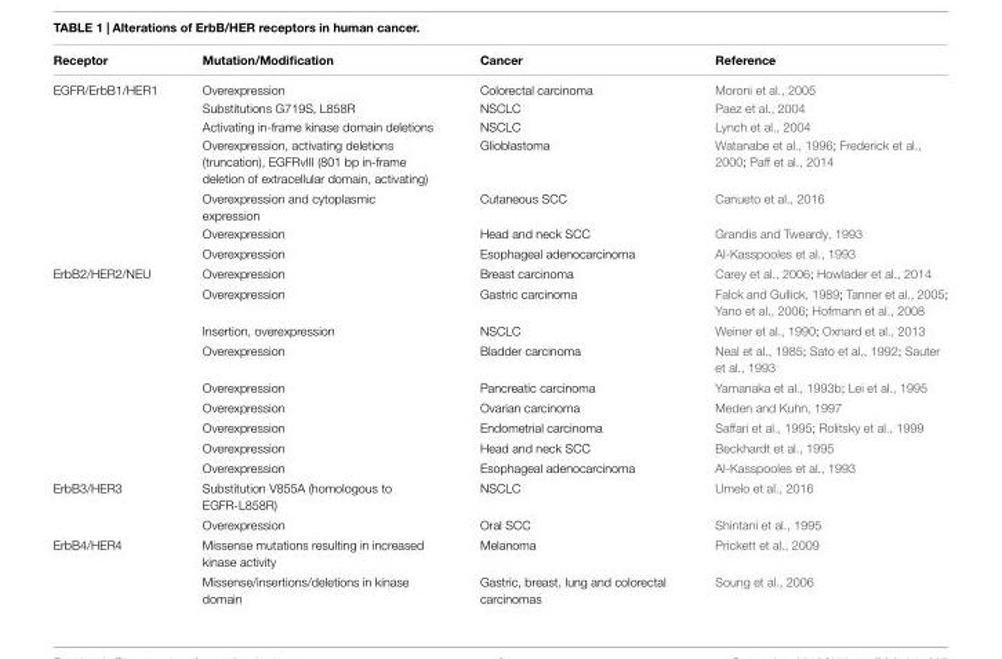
<table><thead><tr><td>Receptor</td><td>Mutation/Modification</td><td>Cancer</td><td>Reference</td></tr></thead><tbody><tr><td rowspan="7">EGFR/ErbB1/HER1</td><td>Overexpression</td><td>Colorectal carcinoma</td><td>Moroni et al., 2005</td></tr><tr><td>Substitutions G719S, L858R</td><td>NSCLC</td><td>Paez et al., 2004</td></tr><tr><td>Activating in-frame kinase domain deletions</td><td>NSCLC</td><td>Lynch et al., 2004</td></tr><tr><td>Overexpression, activating deletions (truncation), EGFRvIII (801 bp in-frame deletion of extracellular domain, activating)</td><td>Glioblastoma</td><td>Watanabe et al., 1996; Frederick et al., 2000; Paff et al., 2014</td></tr><tr><td>Overexpression and cytoplasmic expression</td><td>Cutaneous SCC</td><td>Canueto et al., 2016</td></tr><tr><td>Overexpression</td><td>Head and neck SCC</td><td>Grandis and Tweardy, 1993</td></tr><tr><td>Overexpression</td><td>Esophageal adenocarcinoma</td><td>Al-Kasspooles et al., 1993</td></tr><tr><td rowspan="9">ErbB2/HER2/NEU</td><td>Overexpression</td><td>Breast carcinoma</td><td>Carey et al., 2006; Howlader et al., 2014</td></tr><tr><td>Overexpression</td><td>Gastric carcinoma</td><td>Falck and Gullick, 1989; Tanner et al., 2005; Yano et al., 2006; Hofmann et al., 2008</td></tr><tr><td>Insertion, overexpression</td><td>NSCLC</td><td>Weiner et al., 1990; Oxnard et al., 2013</td></tr><tr><td>Overexpression</td><td>Bladder carcinoma</td><td>Neal et al., 1985; Sato et al., 1992; Sauter et al., 1993</td></tr><tr><td>Overexpression</td><td>Pancreatic carcinoma</td><td>Yamanaka et al., 1993b; Lei et al., 1995</td></tr><tr><td>Overexpression</td><td>Ovarian carcinoma</td><td>Meden and Kuhn, 1997</td></tr><tr><td>Overexpression</td><td>Endometrial carcinoma</td><td>Saffari et al., 1995; Rolitsky et al., 1999</td></tr><tr><td>Overexpression</td><td>Head and neck SCC</td><td>Beckhardt et al., 1995</td></tr><tr><td>Overexpression</td><td>Esophageal adenocarcinoma</td><td>Al-Kasspooles et al., 1993</td></tr><tr><td rowspan="2">ErbB3/HER3</td><td>Substitution V855A (homologous to EGFR-L858R)</td><td>NSCLC</td><td>Umelo et al., 2016</td></tr><tr><td>Overexpression</td><td>Oral SCC</td><td>Shintani et al., 1995</td></tr><tr><td rowspan="2">ErbB4/HER4</td><td>Missense mutations resulting in increased kinase activity</td><td>Melanoma</td><td>Prickett et al., 2009</td></tr><tr><td>Missense/insertions/deletions in kinase domain</td><td>Gastric, breast, lung and colorectal carcinomas</td><td>Soung et al., 2006</td></tr></tbody></table>